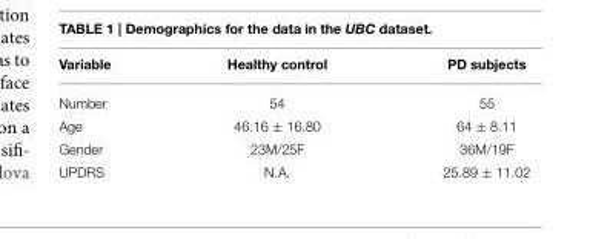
<table><thead><tr><td>Variable</td><td>Healthy control</td><td>PD subjects</td></tr></thead><tbody><tr><td>Number</td><td>54</td><td>55</td></tr><tr><td>Age</td><td>46.16 ± 16.80</td><td>64 ± 8.11</td></tr><tr><td>Gender</td><td>23M/25F</td><td>36M/19F</td></tr><tr><td>UPDRS</td><td>N.A.</td><td>25.89 ± 11.02</td></tr></tbody></table>